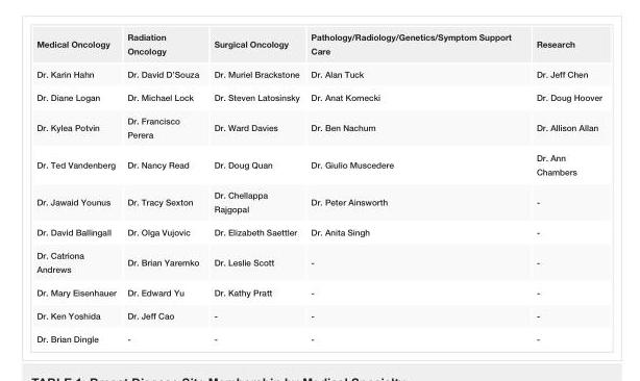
<table><tbody><tr><td>Medical Oncology</td><td>Radiation Oncology</td><td>Surgical Oncology</td><td>Pathology/Radiology/Genetics/Symptom Support Care</td><td>Research</td></tr><tr><td>Dr. Karin Hahn</td><td>Dr. David D’Souza</td><td>Dr. Muriel Brackstone</td><td>Dr. Alan Tuck</td><td>Dr. Jeff Chen</td></tr><tr><td>Dr. Diane Logan</td><td>Dr. Michael Lock</td><td>Dr. Steven Latosinsky</td><td>Dr. Anat Kornecki</td><td>Dr. Doug Hoover</td></tr><tr><td>Dr. Kylea Potvin</td><td>Dr. Francisco Perera</td><td>Dr. Ward Davies</td><td>Dr. Ben Nachum</td><td>Dr. Allison Allan</td></tr><tr><td>Dr. Ted Vandenberg</td><td>Dr. Nancy Read</td><td>Dr. Doug Quan</td><td>Dr. Giulio Muscedere</td><td>Dr. Ann Chambers</td></tr><tr><td>Dr. Jawaid Younus</td><td>Dr. Tracy Sexton</td><td>Dr. Chellappa Rajgopal</td><td>Dr. Peter Ainsworth</td><td>-</td></tr><tr><td>Dr. David Ballingall</td><td>Dr. Olga Vujovic</td><td>Dr. Elizabeth Saettler</td><td>Dr. Anita Singh</td><td>-</td></tr><tr><td>Dr. Catriona Andrews</td><td>Dr. Brian Yaremko</td><td>Dr. Leslie Scott</td><td>-</td><td>-</td></tr><tr><td>Dr. Mary Eisenhauer</td><td>Dr. Edward Yu</td><td>Dr. Kathy Pratt</td><td>-</td><td>-</td></tr><tr><td>Dr. Ken Yoshida</td><td>Dr. Jeff Cao</td><td>-</td><td>-</td><td>-</td></tr><tr><td>Dr. Brian Dingle</td><td>-</td><td>-</td><td>-</td><td>-</td></tr></tbody></table>